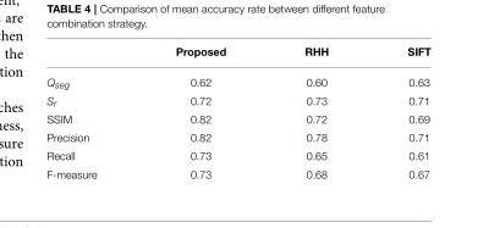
<table><thead><tr><td></td><td>Proposed</td><td>RHH</td><td>SIFT</td></tr></thead><tbody><tr><td>Qseg</td><td>0.62</td><td>0.60</td><td>0.63</td></tr><tr><td>Sr</td><td>0.72</td><td>0.73</td><td>0.71</td></tr><tr><td>SSIM</td><td>0.82</td><td>0.72</td><td>0.69</td></tr><tr><td>Precision</td><td>0.82</td><td>0.78</td><td>0.71</td></tr><tr><td>Recall</td><td>0.73</td><td>0.65</td><td>0.61</td></tr><tr><td>F-measure</td><td>0.73</td><td>0.68</td><td>0.67</td></tr></tbody></table>